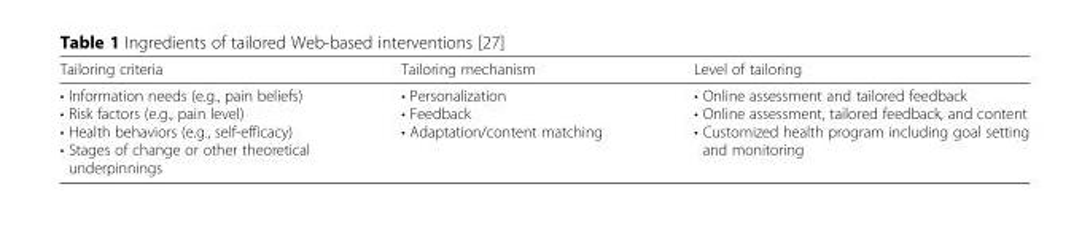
<table><thead><tr><td>Tailoring criteria</td><td>Tailoring mechanism</td><td>Level of tailoring</td></tr></thead><tbody><tr><td>• Information needs (e.g., pain beliefs) • Risk factors (e.g., pain level) • Health behaviors (e.g., self-efficacy) • Stages of change or other theoretical underpinnings</td><td>• Personalization • Feedback • Adaptation/content matching</td><td>• Online assessment and tailored feedback • Online assessment, tailored feedback, and content • Customized health program including goal setting and monitoring</td></tr></tbody></table>